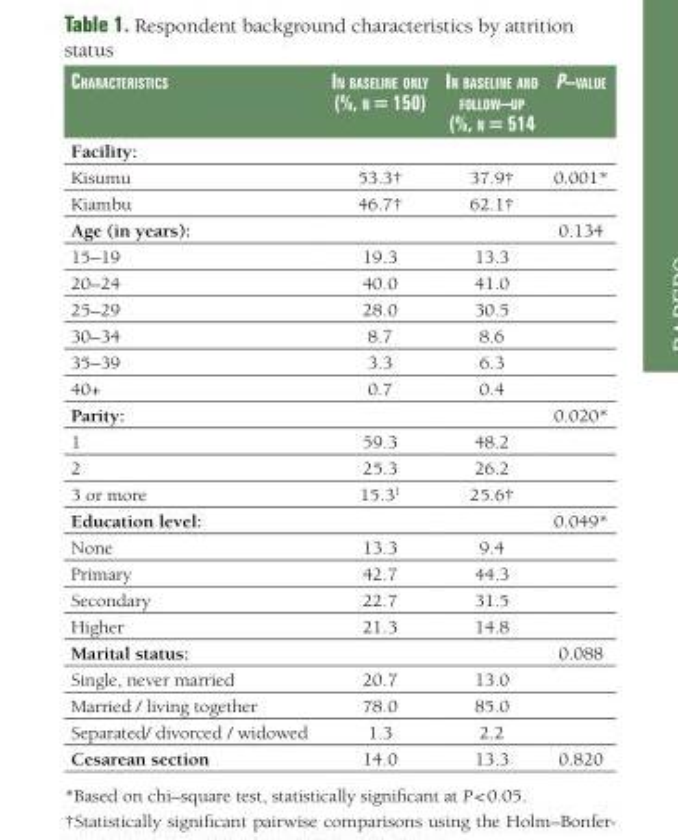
<table><thead><tr><td>CharaCteristiCs</td><td>in baseline only (%, n = 150)</td><td>in baseline and follow–up (%, n = 514</td><td>p–value</td></tr></thead><tbody><tr><td colspan="4">Facility:</td></tr><tr><td>Kisumu</td><td>53.3†</td><td>37.9†</td><td>0.001*</td></tr><tr><td>Kiambu</td><td>46.7†</td><td>62.1†</td><td></td></tr><tr><td>Age (in years):</td><td></td><td></td><td>0.134</td></tr><tr><td>15–19</td><td>19.3</td><td>13.3</td><td></td></tr><tr><td>20–24</td><td>40.0</td><td>41.0</td><td></td></tr><tr><td>25–29</td><td>28.0</td><td>30.5</td><td></td></tr><tr><td>30–34</td><td>8.7</td><td>8.6</td><td></td></tr><tr><td>35–39</td><td>3.3</td><td>6.3</td><td></td></tr><tr><td>40+</td><td>0.7</td><td>0.4</td><td></td></tr><tr><td>Parity:</td><td></td><td></td><td>0.020*</td></tr><tr><td>1</td><td>59.3</td><td>48.2</td><td></td></tr><tr><td>2</td><td>25.3</td><td>26.2</td><td></td></tr><tr><td>3 or more</td><td>15.3<sup>1</sup></td><td>25.6†</td><td></td></tr><tr><td>Education level:</td><td></td><td></td><td>0.049*</td></tr><tr><td>None</td><td>13.3</td><td>9.4</td><td></td></tr><tr><td>Primary</td><td>42.7</td><td>44.3</td><td></td></tr><tr><td>Secondary</td><td>22.7</td><td>31.5</td><td></td></tr><tr><td>Higher</td><td>21.3</td><td>14.8</td><td></td></tr><tr><td>Marital status:</td><td></td><td></td><td>0.088</td></tr><tr><td>Single, never married</td><td>20.7</td><td>13.0</td><td></td></tr><tr><td>Married / living together</td><td>78.0</td><td>85.0</td><td></td></tr><tr><td>Separated/ divorced / widowed</td><td>1.3</td><td>2.2</td><td></td></tr><tr><td>Cesarean section</td><td>14.0</td><td>13.3</td><td>0.820</td></tr></tbody></table>